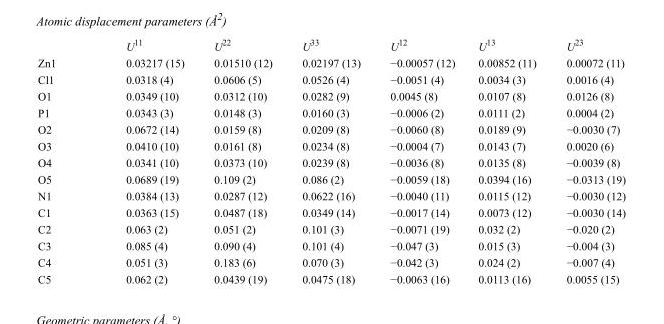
<table><thead><tr><td></td><td>U<sup>11</sup></td><td>U<sup>22</sup></td><td>U<sup>33</sup></td><td>U<sup>12</sup></td><td>U<sup>13</sup></td><td>U<sup>23</sup></td></tr></thead><tbody><tr><td>Zn1</td><td>0.03217 (15)</td><td>0.01510 (12)</td><td>0.02197 (13)</td><td>−0.00057 (12)</td><td>0.00852 (11)</td><td>0.00072 (11)</td></tr><tr><td>Cl1</td><td>0.0318 (4)</td><td>0.0606 (5)</td><td>0.0526 (4)</td><td>−0.0051 (4)</td><td>0.0034 (3)</td><td>0.0016 (4)</td></tr><tr><td>O1</td><td>0.0349 (10)</td><td>0.0312 (10)</td><td>0.0282 (9)</td><td>0.0045 (8)</td><td>0.0107 (8)</td><td>0.0126 (8)</td></tr><tr><td>P1</td><td>0.0343 (3)</td><td>0.0148 (3)</td><td>0.0160 (3)</td><td>−0.0006 (2)</td><td>0.0111 (2)</td><td>0.0004 (2)</td></tr><tr><td>O2</td><td>0.0672 (14)</td><td>0.0159 (8)</td><td>0.0209 (8)</td><td>−0.0060 (8)</td><td>0.0189 (9)</td><td>−0.0030 (7)</td></tr><tr><td>O3</td><td>0.0410 (10)</td><td>0.0161 (8)</td><td>0.0234 (8)</td><td>−0.0004 (7)</td><td>0.0143 (7)</td><td>0.0020 (6)</td></tr><tr><td>O4</td><td>0.0341 (10)</td><td>0.0373 (10)</td><td>0.0239 (8)</td><td>−0.0036 (8)</td><td>0.0135 (8)</td><td>−0.0039 (8)</td></tr><tr><td>O5</td><td>0.0689 (19)</td><td>0.109 (2)</td><td>0.086 (2)</td><td>−0.0059 (18)</td><td>0.0394 (16)</td><td>−0.0313 (19)</td></tr><tr><td>N1</td><td>0.0384 (13)</td><td>0.0287 (12)</td><td>0.0622 (16)</td><td>−0.0040 (11)</td><td>0.0115 (12)</td><td>−0.0030 (12)</td></tr><tr><td>C1</td><td>0.0363 (15)</td><td>0.0487 (18)</td><td>0.0349 (14)</td><td>−0.0017 (14)</td><td>0.0073 (12)</td><td>−0.0030 (14)</td></tr><tr><td>C2</td><td>0.063 (2)</td><td>0.051 (2)</td><td>0.101 (3)</td><td>−0.0071 (19)</td><td>0.032 (2)</td><td>−0.020 (2)</td></tr><tr><td>C3</td><td>0.085 (4)</td><td>0.090 (4)</td><td>0.101 (4)</td><td>−0.047 (3)</td><td>0.015 (3)</td><td>−0.004 (3)</td></tr><tr><td>C4</td><td>0.051 (3)</td><td>0.183 (6)</td><td>0.070 (3)</td><td>−0.042 (3)</td><td>0.024 (2)</td><td>−0.007 (4)</td></tr><tr><td>C5</td><td>0.062 (2)</td><td>0.0439 (19)</td><td>0.0475 (18)</td><td>−0.0063 (16)</td><td>0.0113 (16)</td><td>0.0055 (15)</td></tr></tbody></table>